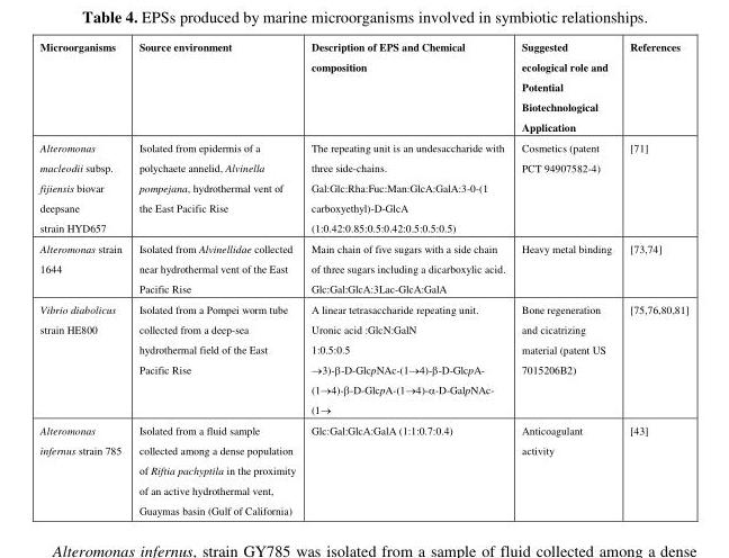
<table><thead><tr><td>Microorganisms</td><td>Source environment</td><td>Description of EPS and Chemical composition</td><td>Suggested ecological role and Potential Biotechnological Application</td><td>References</td></tr></thead><tbody><tr><td>Alteromonas macleodii subsp. fijiensis biovar deepsane strain HYD657</td><td>Isolated from epidermis of a polychaete annelid, Alvinella pompejana, hydrothermal vent of the East Pacific Rise</td><td>The repeating unit is an undesaccharide with three side-chains. Gal:Glc:Rha:Fuc:Man:GlcA:GalA:3-0-(1 carboxyethyl)-D-GlcA (1:0.42:0.85:0.5:0.42:0.5:0.5:0.5)</td><td>Cosmetics (patent PCT 94907582-4)</td><td>[71]</td></tr><tr><td>Alteromonas strain 1644</td><td>Isolated from Alvinellidae collected near hydrothermal vent of the East Pacific Rise</td><td>Main chain of five sugars with a side chain of three sugars including a dicarboxylic acid. Glc:Gal:GlcA:3Lac-GlcA:GalA</td><td>Heavy metal binding</td><td>[73,74]</td></tr><tr><td>Vibrio diabolicus strain HE800</td><td>Isolated from a Pompei worm tube collected from a deep-sea hydrothermal field of the East Pacific Rise</td><td>A linear tetrasaccharide repeating unit. Uronic acid :GlcN:GalN 1:0.5:0.5 →3)-β-D-GlcpNAc-(1→4)-β-D-GlcpA- (1→4)-β-D-GlcpA-(1→4)-α-D-GalpNAc- (1→</td><td>Bone regeneration and cicatrizing material (patent US 7015206B2)</td><td>[75,76,80,81]</td></tr><tr><td>Alteromonas infernus strain 785</td><td>Isolated from a fluid sample collected among a dense population of Riftia pachyptila in the proximity of an active hydrothermal vent, Guaymas basin (Gulf of California)</td><td>Glc:Gal:GlcA:GalA (1:1:0.7:0.4)</td><td>Anticoagulant activity</td><td>[43]</td></tr></tbody></table>